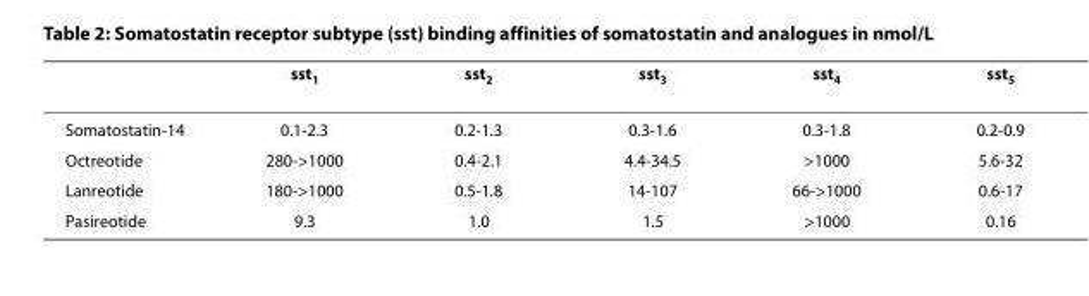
<table><thead><tr><td></td><td>sst<sub>1</sub></td><td>sst<sub>2</sub></td><td>sst<sub>3</sub></td><td>sst<sub>4</sub></td><td>sst<sub>5</sub></td></tr></thead><tbody><tr><td>Somatostatin-14</td><td>0.1-2.3</td><td>0.2-1.3</td><td>0.3-1.6</td><td>0.3-1.8</td><td>0.2-0.9</td></tr><tr><td>Octreotide</td><td>280-&gt;1000</td><td>0.4-2.1</td><td>4.4-34.5</td><td>&gt;1000</td><td>5.6-32</td></tr><tr><td>Lanreotide</td><td>180-&gt;1000</td><td>0.5-1.8</td><td>14-107</td><td>66-&gt;1000</td><td>0.6-17</td></tr><tr><td>Pasireotide</td><td>9.3</td><td>1.0</td><td>1.5</td><td>&gt;1000</td><td>0.16</td></tr></tbody></table>